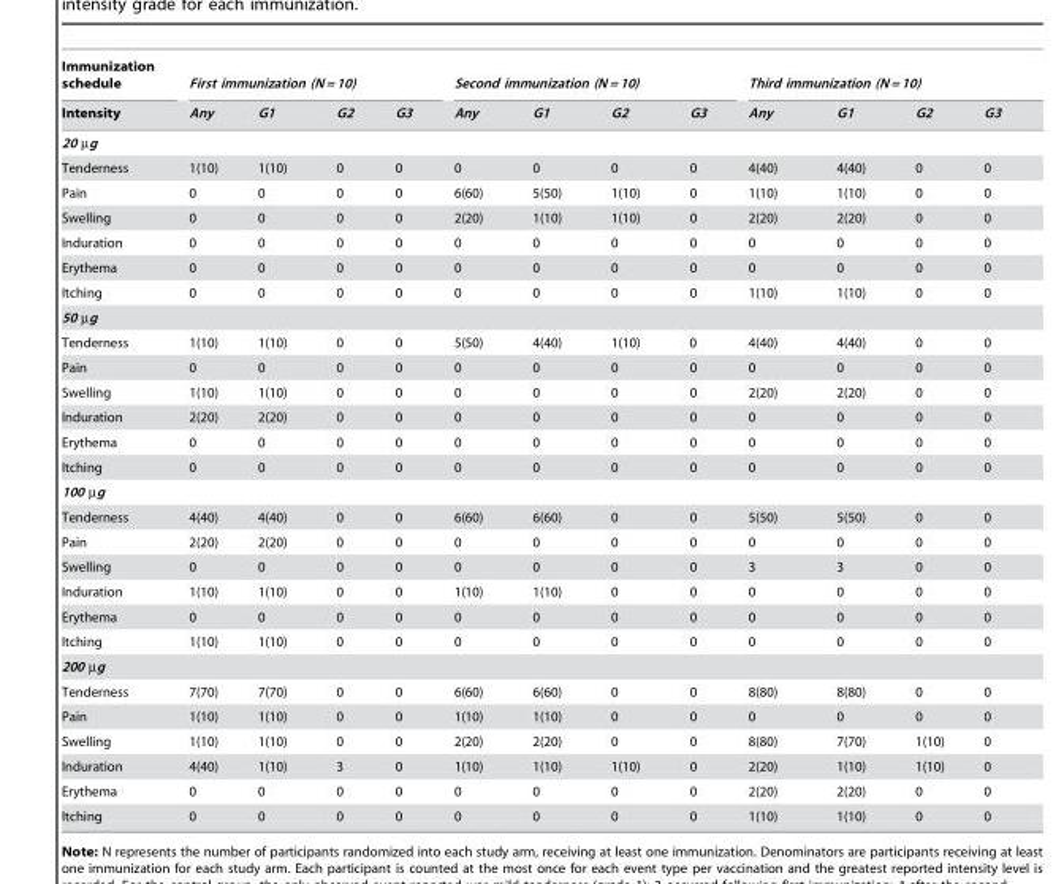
<table><thead><tr><td rowspan="2">Immunization schedule Intensity</td><td colspan="4">First immunization (N = 10)</td><td colspan="4">Second immunization (N = 10)</td><td colspan="4">Third immunization (N = 10)</td></tr><tr><td>Any</td><td>G1</td><td>G2</td><td>G3</td><td>Any</td><td>G1</td><td>G2</td><td>G3</td><td>Any</td><td>G1</td><td>G2</td><td>G3</td></tr></thead><tbody><tr><td colspan="13">20 µg</td></tr><tr><td>Tenderness</td><td>1(10)</td><td>1(10)</td><td>0</td><td>0</td><td>0</td><td>0</td><td>0</td><td>0</td><td>4(40)</td><td>4(40)</td><td>0</td><td>0</td></tr><tr><td>Pain</td><td>0</td><td>0</td><td>0</td><td>0</td><td>6(60)</td><td>5(50)</td><td>1(10)</td><td>0</td><td>1(10)</td><td>1(10)</td><td>0</td><td>0</td></tr><tr><td>Swelling</td><td>0</td><td>0</td><td>0</td><td>0</td><td>2(20)</td><td>1(10)</td><td>1(10)</td><td>0</td><td>2(20)</td><td>2(20)</td><td>0</td><td>0</td></tr><tr><td>Induration</td><td>0</td><td>0</td><td>0</td><td>0</td><td>0</td><td>0</td><td>0</td><td>0</td><td>0</td><td>0</td><td>0</td><td>0</td></tr><tr><td>Erythema</td><td>0</td><td>0</td><td>0</td><td>0</td><td>0</td><td>0</td><td>0</td><td>0</td><td>0</td><td>0</td><td>0</td><td>0</td></tr><tr><td>Itching</td><td>0</td><td>0</td><td>0</td><td>0</td><td>0</td><td>0</td><td>0</td><td>0</td><td>1(10)</td><td>1(10)</td><td>0</td><td>0</td></tr><tr><td colspan="13">50 µg</td></tr><tr><td>Tenderness</td><td>1(10)</td><td>1(10)</td><td>0</td><td>0</td><td>5(50)</td><td>4(40)</td><td>1(10)</td><td>0</td><td>4(40)</td><td>4(40)</td><td>0</td><td>0</td></tr><tr><td>Pain</td><td>0</td><td>0</td><td>0</td><td>0</td><td>0</td><td>0</td><td>0</td><td>0</td><td>0</td><td>0</td><td>0</td><td>0</td></tr><tr><td>Swelling</td><td>1(10)</td><td>1(10)</td><td>0</td><td>0</td><td>0</td><td>0</td><td>0</td><td>0</td><td>2(20)</td><td>2(20)</td><td>0</td><td>0</td></tr><tr><td>Induration</td><td>2(20)</td><td>2(20)</td><td>0</td><td>0</td><td>0</td><td>0</td><td>0</td><td>0</td><td>0</td><td>0</td><td>0</td><td>0</td></tr><tr><td>Erythema</td><td>0</td><td>0</td><td>0</td><td>0</td><td>0</td><td>0</td><td>0</td><td>0</td><td>0</td><td>0</td><td>0</td><td>0</td></tr><tr><td>Itching</td><td>0</td><td>0</td><td>0</td><td>0</td><td>0</td><td>0</td><td>0</td><td>0</td><td>0</td><td>0</td><td>0</td><td>0</td></tr><tr><td colspan="13">100 µg</td></tr><tr><td>Tenderness</td><td>4(40)</td><td>4(40)</td><td>0</td><td>0</td><td>6(60)</td><td>6(60)</td><td>0</td><td>0</td><td>5(50)</td><td>5(50)</td><td>0</td><td>0</td></tr><tr><td>Pain</td><td>2(20)</td><td>2(20)</td><td>0</td><td>0</td><td>0</td><td>0</td><td>0</td><td>0</td><td>0</td><td>0</td><td>0</td><td>0</td></tr><tr><td>Swelling</td><td>0</td><td>0</td><td>0</td><td>0</td><td>0</td><td>0</td><td>0</td><td>0</td><td>3</td><td>3</td><td>0</td><td>0</td></tr><tr><td>Induration</td><td>1(10)</td><td>1(10)</td><td>0</td><td>0</td><td>1(10)</td><td>1(10)</td><td>0</td><td>0</td><td>0</td><td>0</td><td>0</td><td>0</td></tr><tr><td>Erythema</td><td>0</td><td>0</td><td>0</td><td>0</td><td>0</td><td>0</td><td>0</td><td>0</td><td>0</td><td>0</td><td>0</td><td>0</td></tr><tr><td>Itching</td><td>1(10)</td><td>1(10)</td><td>0</td><td>0</td><td>0</td><td>0</td><td>0</td><td>0</td><td>0</td><td>0</td><td>0</td><td>0</td></tr><tr><td colspan="13">200 µg</td></tr><tr><td>Tenderness</td><td>7(70)</td><td>7(70)</td><td>0</td><td>0</td><td>6(60)</td><td>6(60)</td><td>0</td><td>0</td><td>8(80)</td><td>8(80)</td><td>0</td><td>0</td></tr><tr><td>Pain</td><td>1(10)</td><td>1(10)</td><td>0</td><td>0</td><td>1(10)</td><td>1(10)</td><td>0</td><td>0</td><td>0</td><td>0</td><td>0</td><td>0</td></tr><tr><td>Swelling</td><td>1(10)</td><td>1(10)</td><td>0</td><td>0</td><td>2(20)</td><td>2(20)</td><td>0</td><td>0</td><td>8(80)</td><td>7(70)</td><td>1(10)</td><td>0</td></tr><tr><td>Induration</td><td>4(40)</td><td>1(10)</td><td>3</td><td>0</td><td>1(10)</td><td>1(10)</td><td>1(10)</td><td>0</td><td>2(20)</td><td>1(10)</td><td>1(10)</td><td>0</td></tr><tr><td>Erythema</td><td>0</td><td>0</td><td>0</td><td>0</td><td>0</td><td>0</td><td>0</td><td>0</td><td>2(20)</td><td>2(20)</td><td>0</td><td>0</td></tr><tr><td>Itching</td><td>0</td><td>0</td><td>0</td><td>0</td><td>0</td><td>0</td><td>0</td><td>0</td><td>1(10)</td><td>1(10)</td><td>0</td><td>0</td></tr></tbody></table>